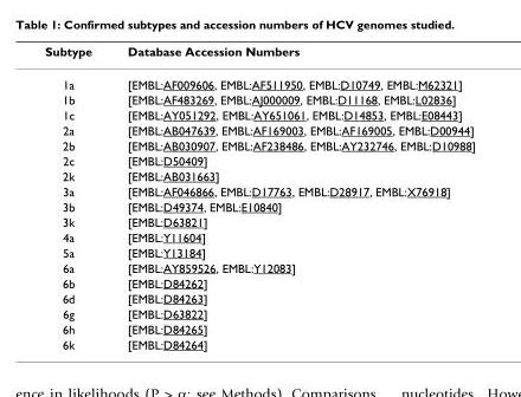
<table><thead><tr><td>Subtype</td><td>Database Accession Numbers</td></tr></thead><tbody><tr><td>1a</td><td>[EMBL:AF009606, EMBL:AF511950, EMBL:D10749, EMBL:M62321]</td></tr><tr><td>1b</td><td>[EMBL:AF483269, EMBL:AJ000009, EMBL:D11168, EMBL:L02836]</td></tr><tr><td>1c</td><td>[EMBL:AY051292, EMBL:AY651061, EMBL:D14853, EMBL:E08443]</td></tr><tr><td>2a</td><td>[EMBL:AB047639, EMBL:AF169003, EMBL:AF169005, EMBL:D00944]</td></tr><tr><td>2b</td><td>[EMBL:AB030907, EMBL:AF238486, EMBL:AY232746, EMBL:D10988]</td></tr><tr><td>2c</td><td>[EMBL:D50409]</td></tr><tr><td>2k</td><td>[EMBL:AB031663]</td></tr><tr><td>3a</td><td>[EMBL:AF046866, EMBL:D17763, EMBL:D28917, EMBL:X76918]</td></tr><tr><td>3b</td><td>[EMBL:D49374, EMBL:E10840]</td></tr><tr><td>3k</td><td>[EMBL:D63821]</td></tr><tr><td>4a</td><td>[EMBL:Y11604]</td></tr><tr><td>5a</td><td>[EMBL:Y13184]</td></tr><tr><td>6a</td><td>[EMBL:AY859526, EMBL:Y12083]</td></tr><tr><td>6b</td><td>[EMBL:D84262]</td></tr><tr><td>6d</td><td>[EMBL:D84263]</td></tr><tr><td>6g</td><td>[EMBL:D63822]</td></tr><tr><td>6h</td><td>[EMBL:D84265]</td></tr><tr><td>6k</td><td>[EMBL:D84264]</td></tr></tbody></table>